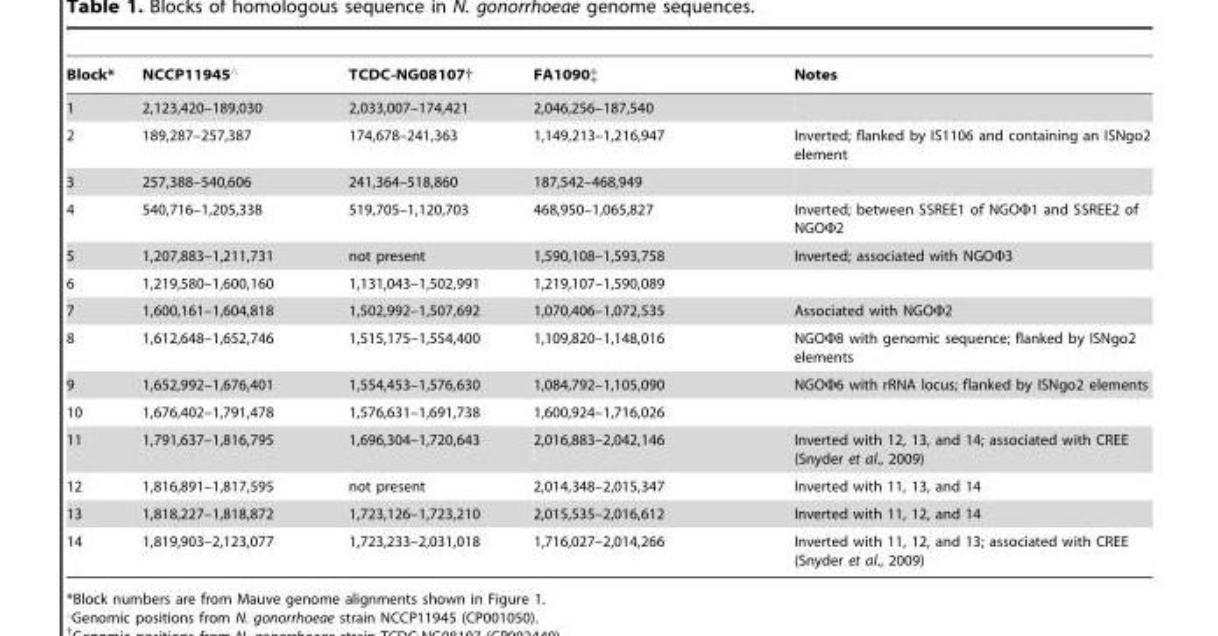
<table><thead><tr><td>Block*</td><td>NCCP11945‘</td><td>TCDC-NG08107†</td><td>FA1090‡</td><td>Notes</td></tr></thead><tbody><tr><td>1</td><td>2,123,420–189,030</td><td>2,033,007–174,421</td><td>2,046,256–187,540</td><td></td></tr><tr><td>2</td><td>189,287–257,387</td><td>174,678–241,363</td><td>1,149,213–1,216,947</td><td>Inverted; flanked by IS1106 and containing an ISNgo2 element</td></tr><tr><td>3</td><td>257,388–540,606</td><td>241,364–518,860</td><td>187,542–468,949</td><td></td></tr><tr><td>4</td><td>540,716–1,205,338</td><td>519,705–1,120,703</td><td>468,950–1,065,827</td><td>Inverted; between SSREE1 of NGOΦ1 and SSREE2 of NGOΦ2</td></tr><tr><td>5</td><td>1,207,883–1,211,731</td><td>not present</td><td>1,590,108–1,593,758</td><td>Inverted; associated with NGOΦ3</td></tr><tr><td>6</td><td>1,219,580–1,600,160</td><td>1,131,043–1,502,991</td><td>1,219,107–1,590,089</td><td></td></tr><tr><td>7</td><td>1,600,161–1,604,818</td><td>1,502,992–1,507,692</td><td>1,070,406–1,072,535</td><td>Associated with NGOΦ2</td></tr><tr><td>8</td><td>1,612,648–1,652,746</td><td>1,515,175–1,554,400</td><td>1,109,820–1,148,016</td><td>NGOΦ8 with genomic sequence; flanked by ISNgo2 elements</td></tr><tr><td>9</td><td>1,652,992–1,676,401</td><td>1,554,453–1,576,630</td><td>1,084,792–1,105,090</td><td>NGOΦ6 with rRNA locus; flanked by ISNgo2 elements</td></tr><tr><td>10</td><td>1,676,402–1,791,478</td><td>1,576,631–1,691,738</td><td>1,600,924–1,716,026</td><td></td></tr><tr><td>11</td><td>1,791,637–1,816,795</td><td>1,696,304–1,720,643</td><td>2,016,883–2,042,146</td><td>Inverted with 12, 13, and 14; associated with CREE (Snyder et al., 2009)</td></tr><tr><td>12</td><td>1,816,891–1,817,595</td><td>not present</td><td>2,014,348–2,015,347</td><td>Inverted with 11, 13, and 14</td></tr><tr><td>13</td><td>1,818,227–1,818,872</td><td>1,723,126–1,723,210</td><td>2,015,535–2,016,612</td><td>Inverted with 11, 12, and 14</td></tr><tr><td>14</td><td>1,819,903–2,123,077</td><td>1,723,233–2,031,018</td><td>1,716,027–2,014,266</td><td>Inverted with 11, 12, and 13; associated with CREE (Snyder et al., 2009)</td></tr></tbody></table>